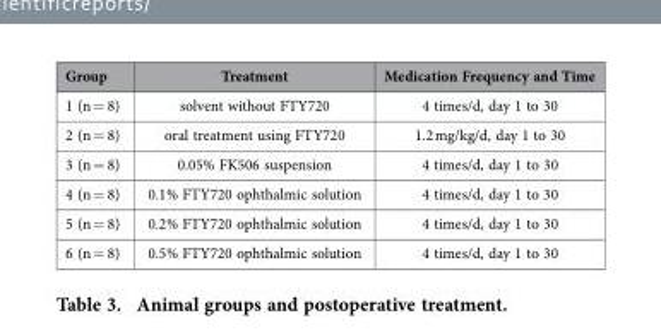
<table><thead><tr><td>Group</td><td>Treatment</td><td>Medication Frequency and Time</td></tr></thead><tbody><tr><td>1 (n = 8)</td><td>solvent without FTY720</td><td>4 times/d, day 1 to 30</td></tr><tr><td>2 (n = 8)</td><td>oral treatment using FTY720</td><td>1.2 mg/kg/d, day 1 to 30</td></tr><tr><td>3 (n = 8)</td><td>0.05% FK506 suspension</td><td>4 times/d, day 1 to 30</td></tr><tr><td>4 (n = 8)</td><td>0.1% FTY720 ophthalmic solution</td><td>4 times/d, day 1 to 30</td></tr><tr><td>5 (n = 8)</td><td>0.2% FTY720 ophthalmic solution</td><td>4 times/d, day 1 to 30</td></tr><tr><td>6 (n = 8)</td><td>0.5% FTY720 ophthalmic solution</td><td>4 times/d, day 1 to 30</td></tr></tbody></table>